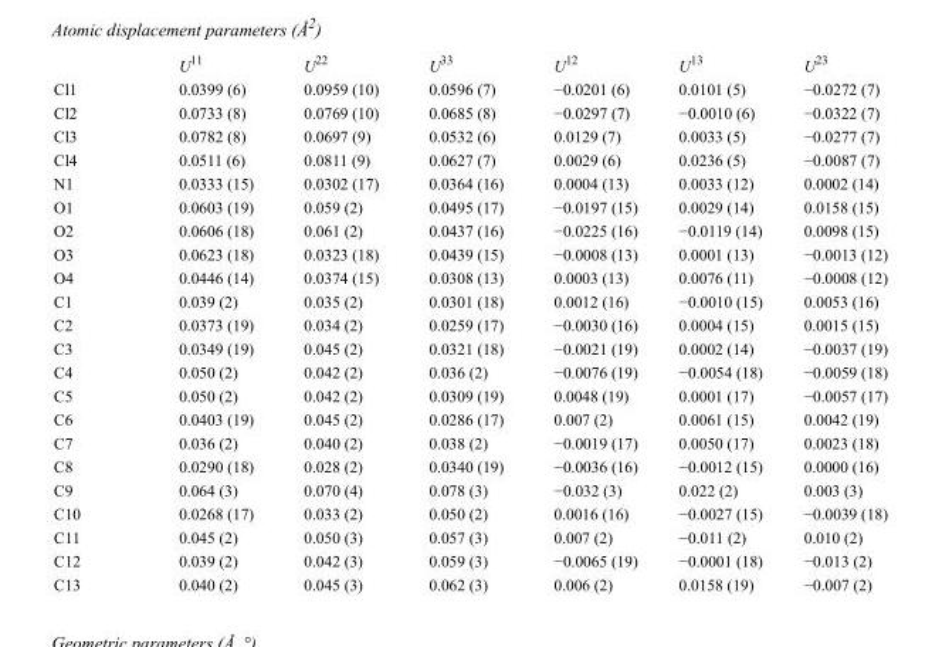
<table><thead><tr><td></td><td>U<sup>11</sup></td><td>U<sup>22</sup></td><td>U<sup>33</sup></td><td>U<sup>12</sup></td><td>U<sup>13</sup></td><td>U<sup>23</sup></td></tr></thead><tbody><tr><td>Cl1</td><td>0.0399 (6)</td><td>0.0959 (10)</td><td>0.0596 (7)</td><td>−0.0201 (6)</td><td>0.0101 (5)</td><td>−0.0272 (7)</td></tr><tr><td>Cl2</td><td>0.0733 (8)</td><td>0.0769 (10)</td><td>0.0685 (8)</td><td>−0.0297 (7)</td><td>−0.0010 (6)</td><td>−0.0322 (7)</td></tr><tr><td>Cl3</td><td>0.0782 (8)</td><td>0.0697 (9)</td><td>0.0532 (6)</td><td>0.0129 (7)</td><td>0.0033 (5)</td><td>−0.0277 (7)</td></tr><tr><td>Cl4</td><td>0.0511 (6)</td><td>0.0811 (9)</td><td>0.0627 (7)</td><td>0.0029 (6)</td><td>0.0236 (5)</td><td>−0.0087 (7)</td></tr><tr><td>N1</td><td>0.0333 (15)</td><td>0.0302 (17)</td><td>0.0364 (16)</td><td>0.0004 (13)</td><td>0.0033 (12)</td><td>0.0002 (14)</td></tr><tr><td>O1</td><td>0.0603 (19)</td><td>0.059 (2)</td><td>0.0495 (17)</td><td>−0.0197 (15)</td><td>0.0029 (14)</td><td>0.0158 (15)</td></tr><tr><td>O2</td><td>0.0606 (18)</td><td>0.061 (2)</td><td>0.0437 (16)</td><td>−0.0225 (16)</td><td>−0.0119 (14)</td><td>0.0098 (15)</td></tr><tr><td>O3</td><td>0.0623 (18)</td><td>0.0323 (18)</td><td>0.0439 (15)</td><td>−0.0008 (13)</td><td>0.0001 (13)</td><td>−0.0013 (12)</td></tr><tr><td>O4</td><td>0.0446 (14)</td><td>0.0374 (15)</td><td>0.0308 (13)</td><td>0.0003 (13)</td><td>0.0076 (11)</td><td>−0.0008 (12)</td></tr><tr><td>C1</td><td>0.039 (2)</td><td>0.035 (2)</td><td>0.0301 (18)</td><td>0.0012 (16)</td><td>−0.0010 (15)</td><td>0.0053 (16)</td></tr><tr><td>C2</td><td>0.0373 (19)</td><td>0.034 (2)</td><td>0.0259 (17)</td><td>−0.0030 (16)</td><td>0.0004 (15)</td><td>0.0015 (15)</td></tr><tr><td>C3</td><td>0.0349 (19)</td><td>0.045 (2)</td><td>0.0321 (18)</td><td>−0.0021 (19)</td><td>0.0002 (14)</td><td>−0.0037 (19)</td></tr><tr><td>C4</td><td>0.050 (2)</td><td>0.042 (2)</td><td>0.036 (2)</td><td>−0.0076 (19)</td><td>−0.0054 (18)</td><td>−0.0059 (18)</td></tr><tr><td>C5</td><td>0.050 (2)</td><td>0.042 (2)</td><td>0.0309 (19)</td><td>0.0048 (19)</td><td>0.0001 (17)</td><td>−0.0057 (17)</td></tr><tr><td>C6</td><td>0.0403 (19)</td><td>0.045 (2)</td><td>0.0286 (17)</td><td>0.007 (2)</td><td>0.0061 (15)</td><td>0.0042 (19)</td></tr><tr><td>C7</td><td>0.036 (2)</td><td>0.040 (2)</td><td>0.038 (2)</td><td>−0.0019 (17)</td><td>0.0050 (17)</td><td>0.0023 (18)</td></tr><tr><td>C8</td><td>0.0290 (18)</td><td>0.028 (2)</td><td>0.0340 (19)</td><td>−0.0036 (16)</td><td>−0.0012 (15)</td><td>0.0000 (16)</td></tr><tr><td>C9</td><td>0.064 (3)</td><td>0.070 (4)</td><td>0.078 (3)</td><td>−0.032 (3)</td><td>0.022 (2)</td><td>0.003 (3)</td></tr><tr><td>C10</td><td>0.0268 (17)</td><td>0.033 (2)</td><td>0.050 (2)</td><td>0.0016 (16)</td><td>−0.0027 (15)</td><td>−0.0039 (18)</td></tr><tr><td>C11</td><td>0.045 (2)</td><td>0.050 (3)</td><td>0.057 (3)</td><td>0.007 (2)</td><td>−0.011 (2)</td><td>0.010 (2)</td></tr><tr><td>C12</td><td>0.039 (2)</td><td>0.042 (3)</td><td>0.059 (3)</td><td>−0.0065 (19)</td><td>−0.0001 (18)</td><td>−0.013 (2)</td></tr><tr><td>C13</td><td>0.040 (2)</td><td>0.045 (3)</td><td>0.062 (3)</td><td>0.006 (2)</td><td>0.0158 (19)</td><td>−0.007 (2)</td></tr></tbody></table>